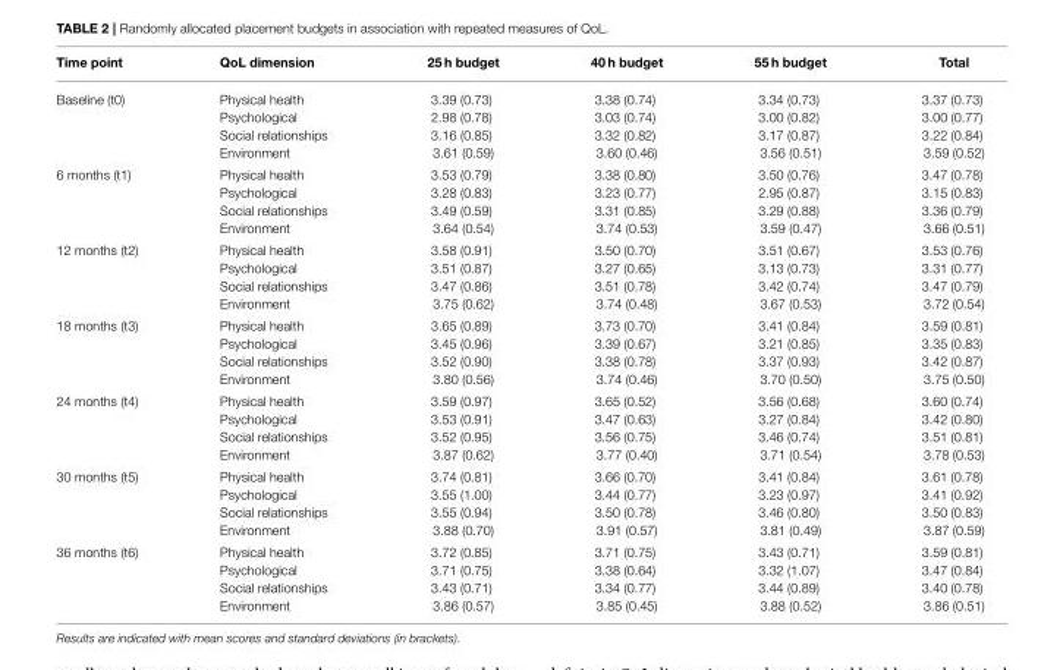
<table><thead><tr><td>Time point</td><td>QoL dimension</td><td>25 h budget</td><td>40 h budget</td><td>55 h budget</td><td>Total</td></tr></thead><tbody><tr><td>Baseline (t0)</td><td>Physical health Psychological Social relationships Environment</td><td>3.39 (0.73) 2.98 (0.78) 3.16 (0.85) 3.61 (0.59)</td><td>3.38 (0.74) 3.03 (0.74) 3.32 (0.82) 3.60 (0.46)</td><td>3.34 (0.73) 3.00 (0.82) 3.17 (0.87) 3.56 (0.51)</td><td>3.37 (0.73) 3.00 (0.77) 3.22 (0.84) 3.59 (0.52)</td></tr><tr><td>6 months (t1)</td><td>Physical health Psychological Social relationships Environment</td><td>3.53 (0.79) 3.28 (0.83) 3.49 (0.59) 3.64 (0.54)</td><td>3.38 (0.80) 3.23 (0.77) 3.31 (0.85) 3.74 (0.53)</td><td>3.50 (0.76) 2.95 (0.87) 3.29 (0.88) 3.59 (0.47)</td><td>3.47 (0.78) 3.15 (0.83) 3.36 (0.79) 3.66 (0.51)</td></tr><tr><td>12 months (t2)</td><td>Physical health Psychological Social relationships Environment</td><td>3.58 (0.91) 3.51 (0.87) 3.47 (0.86) 3.75 (0.62)</td><td>3.50 (0.70) 3.27 (0.65) 3.51 (0.78) 3.74 (0.48)</td><td>3.51 (0.67) 3.13 (0.73) 3.42 (0.74) 3.67 (0.53)</td><td>3.53 (0.76) 3.31 (0.77) 3.47 (0.79) 3.72 (0.54)</td></tr><tr><td>18 months (t3)</td><td>Physical health Psychological Social relationships Environment</td><td>3.65 (0.89) 3.45 (0.96) 3.52 (0.90) 3.80 (0.56)</td><td>3.73 (0.70) 3.39 (0.67) 3.38 (0.78) 3.74 (0.46)</td><td>3.41 (0.84) 3.21 (0.85) 3.37 (0.93) 3.70 (0.50)</td><td>3.59 (0.81) 3.35 (0.83) 3.42 (0.87) 3.75 (0.50)</td></tr><tr><td>24 months (t4)</td><td>Physical health Psychological Social relationships Environment</td><td>3.59 (0.97) 3.53 (0.91) 3.52 (0.95) 3.87 (0.62)</td><td>3.65 (0.52) 3.47 (0.63) 3.56 (0.75) 3.77 (0.40)</td><td>3.56 (0.68) 3.27 (0.84) 3.46 (0.74) 3.71 (0.54)</td><td>3.60 (0.74) 3.42 (0.80) 3.51 (0.81) 3.78 (0.53)</td></tr><tr><td>30 months (t5)</td><td>Physical health Psychological Social relationships Environment</td><td>3.74 (0.81) 3.55 (1.00) 3.55 (0.94) 3.88 (0.70)</td><td>3.66 (0.70) 3.44 (0.77) 3.50 (0.78) 3.91 (0.57)</td><td>3.41 (0.84) 3.23 (0.97) 3.46 (0.80) 3.81 (0.49)</td><td>3.61 (0.78) 3.41 (0.92) 3.50 (0.83) 3.87 (0.59)</td></tr><tr><td>36 months (t6)</td><td>Physical health Psychological Social relationships Environment</td><td>3.72 (0.85) 3.71 (0.75) 3.43 (0.71) 3.86 (0.57)</td><td>3.71 (0.75) 3.38 (0.64) 3.34 (0.77) 3.85 (0.45)</td><td>3.43 (0.71) 3.32 (1.07) 3.44 (0.89) 3.88 (0.52)</td><td>3.59 (0.81) 3.47 (0.84) 3.40 (0.78) 3.86 (0.51)</td></tr></tbody></table>